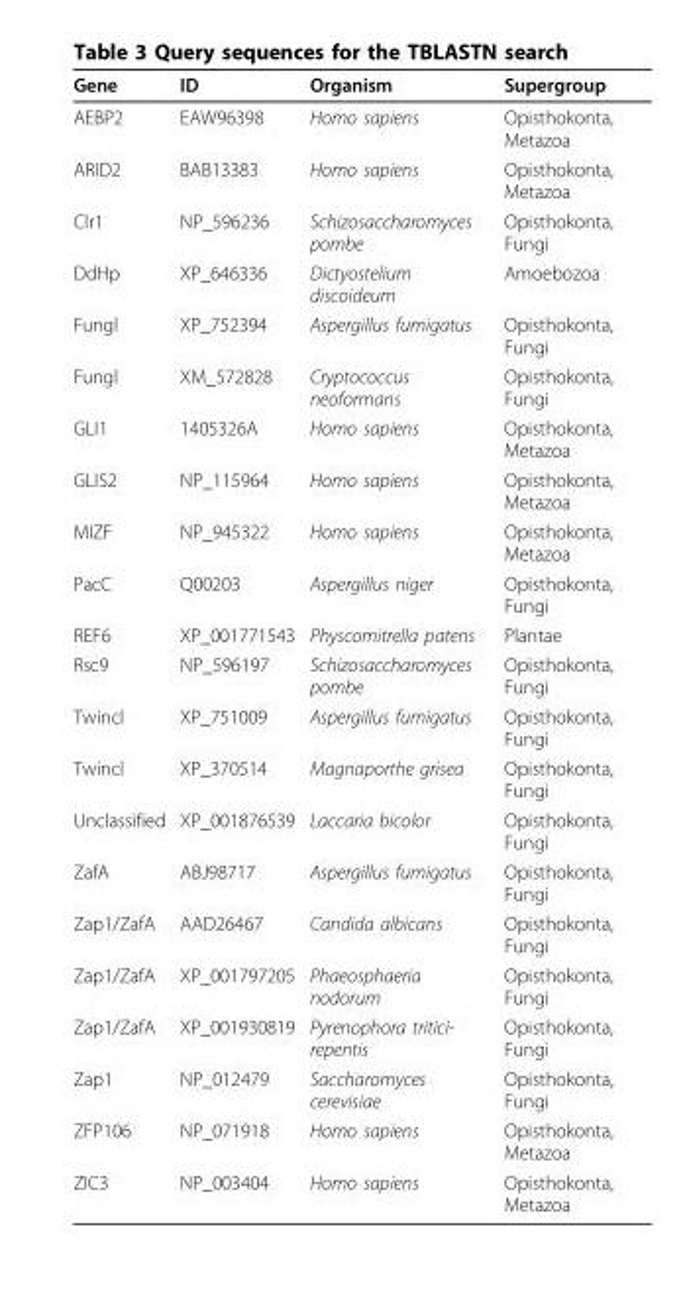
<table><thead><tr><td>Gene</td><td>ID</td><td>Organism</td><td>Supergroup</td></tr></thead><tbody><tr><td>AEBP2</td><td>EAW96398</td><td>Homo sapiens</td><td>Opisthokonta, Metazoa</td></tr><tr><td>ARID2</td><td>BAB13383</td><td>Homo sapiens</td><td>Opisthokonta, Metazoa</td></tr><tr><td>Clr1</td><td>NP_596236</td><td>Schizosaccharomyces pombe</td><td>Opisthokonta, Fungi</td></tr><tr><td>DdHp</td><td>XP_646336</td><td>Dictyostelium discoideum</td><td>Amoebozoa</td></tr><tr><td>Fungl</td><td>XP_752394</td><td>Aspergillus fumigatus</td><td>Opisthokonta, Fungi</td></tr><tr><td>Fungl</td><td>XM_572828</td><td>Cryptococcus neoformans</td><td>Opisthokonta, Fungi</td></tr><tr><td>GLI1</td><td>1405326A</td><td>Homo sapiens</td><td>Opisthokonta, Metazoa</td></tr><tr><td>GLIS2</td><td>NP_115964</td><td>Homo sapiens</td><td>Opisthokonta, Metazoa</td></tr><tr><td>MIZF</td><td>NP_945322</td><td>Homo sapiens</td><td>Opisthokonta, Metazoa</td></tr><tr><td>PacC</td><td>Q00203</td><td>Aspergillus niger</td><td>Opisthokonta, Fungi</td></tr><tr><td>REF6</td><td>XP_001771543</td><td>Physcomitrella patens</td><td>Plantae</td></tr><tr><td>Rsc9</td><td>NP_596197</td><td>Schizosaccharomyces pombe</td><td>Opisthokonta, Fungi</td></tr><tr><td>Twincl</td><td>XP_751009</td><td>Aspergillus fumigatus</td><td>Opisthokonta, Fungi</td></tr><tr><td>Twincl</td><td>XP_370514</td><td>Magnaporthe grisea</td><td>Opisthokonta, Fungi</td></tr><tr><td>Unclassified</td><td>XP_001876539</td><td>Laccaria bicolor</td><td>Opisthokonta, Fungi</td></tr><tr><td>ZafA</td><td>ABJ98717</td><td>Aspergillus fumigatus</td><td>Opisthokonta, Fungi</td></tr><tr><td>Zap1/ZafA</td><td>AAD26467</td><td>Candida albicans</td><td>Opisthokonta, Fungi</td></tr><tr><td>Zap1/ZafA</td><td>XP_001797205</td><td>Phaeosphaeria nodorum</td><td>Opisthokonta, Fungi</td></tr><tr><td>Zap1/ZafA</td><td>XP_001930819</td><td>Pyrenophora tritici- repentis</td><td>Opisthokonta, Fungi</td></tr><tr><td>Zap1</td><td>NP_012479</td><td>Saccharomyces cerevisiae</td><td>Opisthokonta, Fungi</td></tr><tr><td>ZFP106</td><td>NP_071918</td><td>Homo sapiens</td><td>Opisthokonta, Metazoa</td></tr><tr><td>ZIC3</td><td>NP_003404</td><td>Homo sapiens</td><td>Opisthokonta, Metazoa</td></tr></tbody></table>